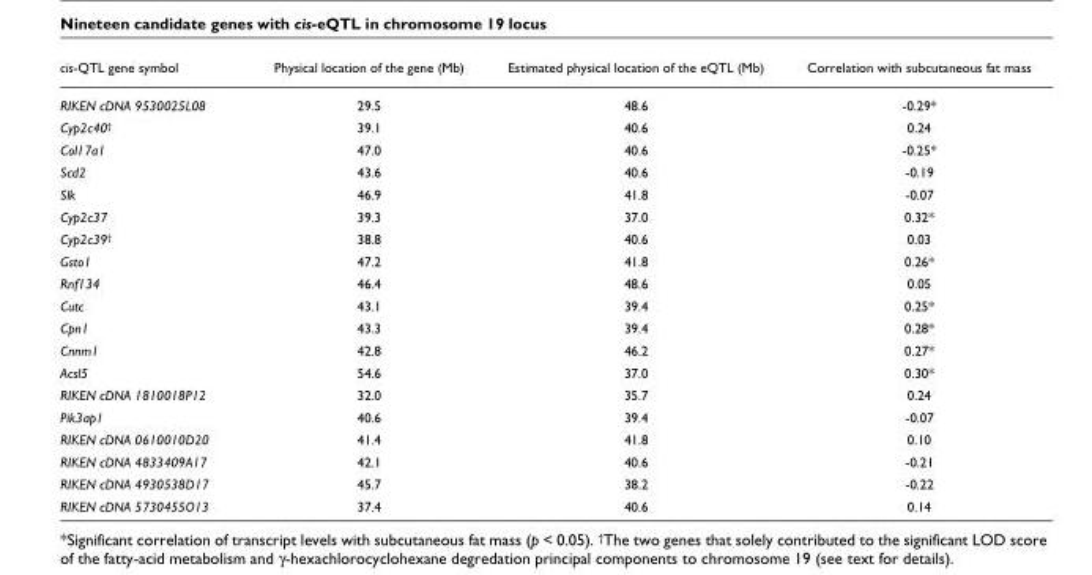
<table><thead><tr><td>cis-QTL gene symbol</td><td>Physical location of the gene (Mb)</td><td>Estimated physical location of the eQTL (Mb)</td><td>Correlation with subcutaneous fat mass</td></tr></thead><tbody><tr><td>RIKEN cDNA 9530025L08</td><td>29.5</td><td>48.6</td><td>-0.29*</td></tr><tr><td>Cyp2c40†</td><td>39.1</td><td>40.6</td><td>0.24</td></tr><tr><td>Col17a1</td><td>47.0</td><td>40.6</td><td>-0.25*</td></tr><tr><td>Scd2</td><td>43.6</td><td>40.6</td><td>-0.19</td></tr><tr><td>Slk</td><td>46.9</td><td>41.8</td><td>-0.07</td></tr><tr><td>Cyp2c37</td><td>39.3</td><td>37.0</td><td>0.32*</td></tr><tr><td>Cyp2c39†</td><td>38.8</td><td>40.6</td><td>0.03</td></tr><tr><td>Gsto1</td><td>47.2</td><td>41.8</td><td>0.26*</td></tr><tr><td>Rnf134</td><td>46.4</td><td>48.6</td><td>0.05</td></tr><tr><td>Cutc</td><td>43.1</td><td>39.4</td><td>0.25*</td></tr><tr><td>Cpn1</td><td>43.3</td><td>39.4</td><td>0.28*</td></tr><tr><td>Cnnm1</td><td>42.8</td><td>46.2</td><td>0.27*</td></tr><tr><td>Acsl5</td><td>54.6</td><td>37.0</td><td>0.30*</td></tr><tr><td>RIKEN cDNA 1810018P12</td><td>32.0</td><td>35.7</td><td>0.24</td></tr><tr><td>Pik3ap1</td><td>40.6</td><td>39.4</td><td>-0.07</td></tr><tr><td>RIKEN cDNA 0610010D20</td><td>41.4</td><td>41.8</td><td>0.10</td></tr><tr><td>RIKEN cDNA 4833409A17</td><td>42.1</td><td>40.6</td><td>-0.21</td></tr><tr><td>RIKEN cDNA 4930538D17</td><td>45.7</td><td>38.2</td><td>-0.22</td></tr><tr><td>RIKEN cDNA 5730455O13</td><td>37.4</td><td>40.6</td><td>0.14</td></tr></tbody></table>